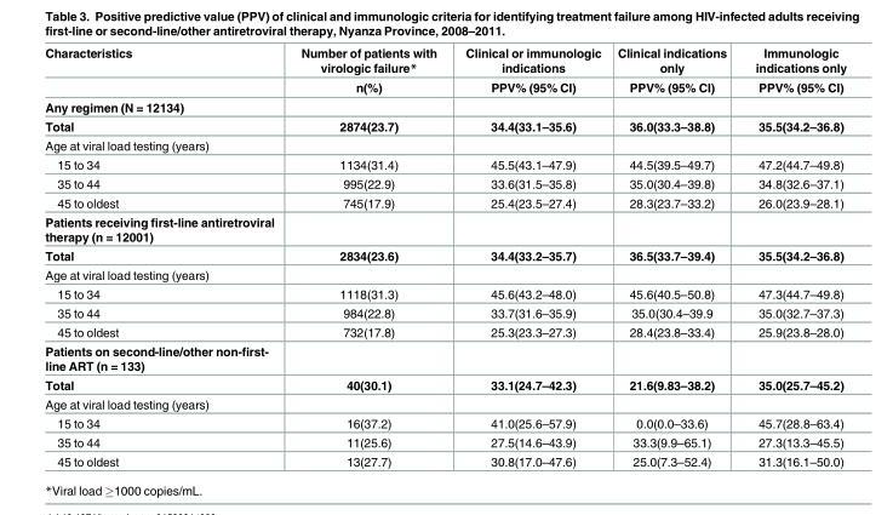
<table><thead><tr><td rowspan="2">Characteristics</td><td rowspan="2">Number of patients with virologic failure* n(%)</td><td rowspan="2">Clinical or immunologic indications PPV% (95% CI)</td><td rowspan="2">Clinical indications only PPV% (95% CI)</td><td rowspan="2">Immunologic indications only PPV% (95% CI)</td></tr><tr></tr></thead><tbody><tr><td colspan="5">Any regimen (N = 12134)</td></tr><tr><td>Total</td><td>2874(23.7)</td><td>34.4(33.1–35.6)</td><td>36.0(33.3–38.8)</td><td>35.5(34.2–36.8)</td></tr><tr><td colspan="5">Age at viral load testing (years)</td></tr><tr><td>15 to 34</td><td>1134(31.4)</td><td>45.5(43.1–47.9)</td><td>44.5(39.5–49.7)</td><td>47.2(44.7–49.8)</td></tr><tr><td>35 to 44</td><td>995(22.9)</td><td>33.6(31.5–35.8)</td><td>35.0(30.4–39.8)</td><td>34.8(32.6–37.1)</td></tr><tr><td>45 to oldest</td><td>745(17.9)</td><td>25.4(23.5–27.4)</td><td>28.3(23.7–33.2)</td><td>26.0(23.9–28.1)</td></tr><tr><td colspan="5">Patients receiving first-line antiretroviral therapy (n = 12001)</td></tr><tr><td>Total</td><td>2834(23.6)</td><td>34.4(33.2–35.7)</td><td>36.5(33.7–39.4)</td><td>35.5(34.2–36.8)</td></tr><tr><td colspan="5">Age at viral load testing (years)</td></tr><tr><td>15 to 34</td><td>1118(31.3)</td><td>45.6(43.2–48.0)</td><td>45.6(40.5–50.8)</td><td>47.3(44.7–49.8)</td></tr><tr><td>35 to 44</td><td>984(22.8)</td><td>33.7(31.6–35.9)</td><td>35.0(30.4–39.9</td><td>35.0(32.7–37.3)</td></tr><tr><td>45 to oldest</td><td>732(17.8)</td><td>25.3(23.3–27.3)</td><td>28.4(23.8–33.4)</td><td>25.9(23.8–28.0)</td></tr><tr><td colspan="5">Patients on second-line/other non-first- line ART (n = 133)</td></tr><tr><td>Total</td><td>40(30.1)</td><td>33.1(24.7–42.3)</td><td>21.6(9.83–38.2)</td><td>35.0(25.7–45.2)</td></tr><tr><td colspan="5">Age at viral load testing (years)</td></tr><tr><td>15 to 34</td><td>16(37.2)</td><td>41.0(25.6–57.9)</td><td>0.0(0.0–33.6)</td><td>45.7(28.8–63.4)</td></tr><tr><td>35 to 44</td><td>11(25.6)</td><td>27.5(14.6–43.9)</td><td>33.3(9.9–65.1)</td><td>27.3(13.3–45.5)</td></tr><tr><td>45 to oldest</td><td>13(27.7)</td><td>30.8(17.0–47.6)</td><td>25.0(7.3–52.4)</td><td>31.3(16.1–50.0)</td></tr></tbody></table>